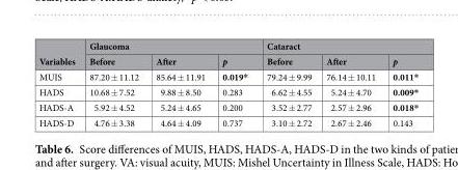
<table><thead><tr><td rowspan="2">Variables</td><td colspan="3">Glaucoma</td><td colspan="3">Cataract</td></tr><tr><td>Before</td><td>After</td><td>p</td><td>Before</td><td>After</td><td>p</td></tr></thead><tbody><tr><td>MUIS</td><td>87.20 ± 11.12</td><td>85.64 ± 11.91</td><td>0.019*</td><td>79.24 ± 9.99</td><td>76.14 ± 10.11</td><td>0.011*</td></tr><tr><td>HADS</td><td>10.68 ± 7.52</td><td>9.88 ± 8.50</td><td>0.283</td><td>6.62 ± 4.55</td><td>5.24 ± 4.70</td><td>0.009*</td></tr><tr><td>HADS-A</td><td>5.92 ± 4.52</td><td>5.24 ± 4.65</td><td>0.200</td><td>3.52 ± 2.77</td><td>2.57 ± 2.96</td><td>0.018*</td></tr><tr><td>HADS-D</td><td>4.76 ± 3.38</td><td>4.64 ± 4.09</td><td>0.737</td><td>3.10 ± 2.72</td><td>2.67 ± 2.46</td><td>0.143</td></tr></tbody></table>